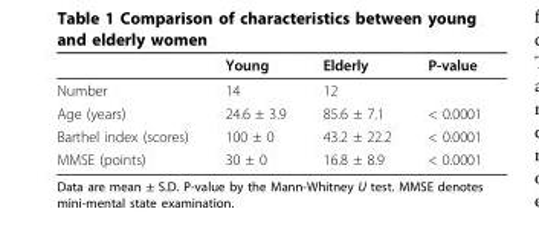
<table><thead><tr><td></td><td>Young</td><td>Elderly</td><td>P-value</td></tr></thead><tbody><tr><td>Number</td><td>14</td><td>12</td><td></td></tr><tr><td>Age (years)</td><td>24.6 ± 3.9</td><td>85.6 ± 7.1</td><td>&lt; 0.0001</td></tr><tr><td>Barthel index (scores)</td><td>100 ± 0</td><td>43.2 ± 22.2</td><td>&lt; 0.0001</td></tr><tr><td>MMSE (points)</td><td>30 ± 0</td><td>16.8 ± 8.9</td><td>&lt; 0.0001</td></tr></tbody></table>